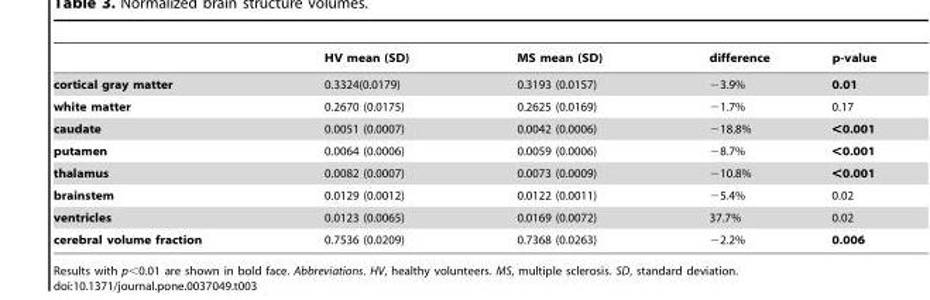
<table><thead><tr><td></td><td>HV mean (SD)</td><td>MS mean (SD)</td><td>difference</td><td>p-value</td></tr></thead><tbody><tr><td>cortical gray matter</td><td>0.3324(0.0179)</td><td>0.3193 (0.0157)</td><td>−3.9%</td><td>0.01</td></tr><tr><td>white matter</td><td>0.2670 (0.0175)</td><td>0.2625 (0.0169)</td><td>−1.7%</td><td>0.17</td></tr><tr><td>caudate</td><td>0.0051 (0.0007)</td><td>0.0042 (0.0006)</td><td>−18.8%</td><td>&lt;0.001</td></tr><tr><td>putamen</td><td>0.0064 (0.0006)</td><td>0.0059 (0.0006)</td><td>−8.7%</td><td>&lt;0.001</td></tr><tr><td>thalamus</td><td>0.0082 (0.0007)</td><td>0.0073 (0.0009)</td><td>−10.8%</td><td>&lt;0.001</td></tr><tr><td>brainstem</td><td>0.0129 (0.0012)</td><td>0.0122 (0.0011)</td><td>−5.4%</td><td>0.02</td></tr><tr><td>ventricles</td><td>0.0123 (0.0065)</td><td>0.0169 (0.0072)</td><td>37.7%</td><td>0.02</td></tr><tr><td>cerebral volume fraction</td><td>0.7536 (0.0209)</td><td>0.7368 (0.0263)</td><td>−2.2%</td><td>0.006</td></tr></tbody></table>